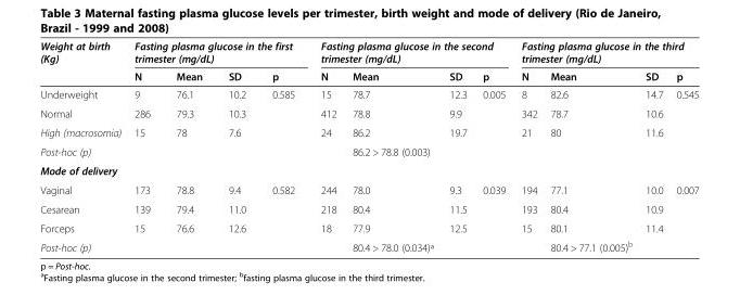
<table><thead><tr><td rowspan="2">Weight at birth (Kg)</td><td colspan="4">Fasting plasma glucose in the first trimester (mg/dL)</td><td colspan="4">Fasting plasma glucose in the second trimester (mg/dL)</td><td colspan="4">Fasting plasma glucose in the third trimester (mg/dL)</td></tr><tr><td>N</td><td>Mean</td><td>SD</td><td>p</td><td>N</td><td>Mean</td><td>SD</td><td>p</td><td>N</td><td>Mean</td><td>SD</td><td>p</td></tr></thead><tbody><tr><td>Underweight</td><td>9</td><td>76.1</td><td>10.2</td><td rowspan="3">0.585</td><td>15</td><td>78.7</td><td>12.3</td><td rowspan="3">0.005</td><td>8</td><td>82.6</td><td>14.7</td><td rowspan="3">0.545</td></tr><tr><td>Normal</td><td>286</td><td>79.3</td><td>10.3</td><td>412</td><td>78.8</td><td>9.9</td><td>342</td><td>78.7</td><td>10.6</td></tr><tr><td>High (macrosomia)</td><td>15</td><td>78</td><td>7.6</td><td>24</td><td>86.2</td><td>19.7</td><td>21</td><td>80</td><td>11.6</td></tr><tr><td>Post-hoc (p)</td><td></td><td></td><td></td><td></td><td></td><td>86.2 &gt; 78.8 (0.003)</td><td></td><td></td><td></td><td></td><td></td><td></td></tr><tr><td colspan="13">Mode of delivery</td></tr><tr><td>Vaginal</td><td>173</td><td>78.8</td><td>9.4</td><td>0.582</td><td>244</td><td>78.0</td><td>9.3</td><td>0.039</td><td>194</td><td>77.1</td><td>10.0</td><td>0.007</td></tr><tr><td>Cesarean</td><td>139</td><td>79.4</td><td>11.0</td><td></td><td>218</td><td>80.4</td><td>11.5</td><td></td><td>193</td><td>80.4</td><td>10.9</td><td></td></tr><tr><td>Forceps</td><td>15</td><td>76.6</td><td>12.6</td><td></td><td>18</td><td>77.9</td><td>12.5</td><td></td><td>15</td><td>80.1</td><td>11.4</td><td></td></tr><tr><td>Post-hoc (p)</td><td></td><td></td><td></td><td></td><td></td><td>80.4 &gt; 78.0 (0.034)ª</td><td></td><td></td><td></td><td>80.4 &gt; 77.1 (0.005)<sup>b</sup></td><td></td><td></td></tr></tbody></table>